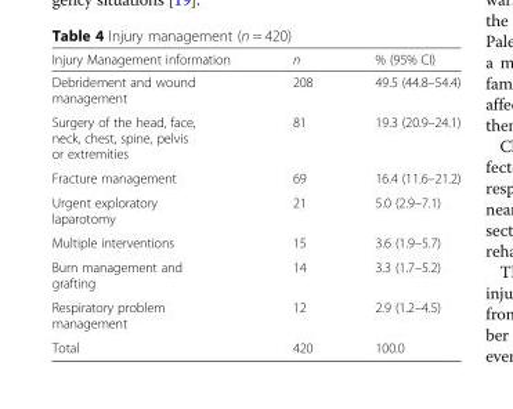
<table><thead><tr><td>Injury Management information</td><td>n</td><td>% (95% CI)</td></tr></thead><tbody><tr><td>Debridement and wound management</td><td>208</td><td>49.5 (44.8–54.4)</td></tr><tr><td>Surgery of the head, face, neck, chest, spine, pelvis or extremities</td><td>81</td><td>19.3 (20.9–24.1)</td></tr><tr><td>Fracture management</td><td>69</td><td>16.4 (11.6–21.2)</td></tr><tr><td>Urgent exploratory laparotomy</td><td>21</td><td>5.0 (2.9–7.1)</td></tr><tr><td>Multiple interventions</td><td>15</td><td>3.6 (1.9–5.7)</td></tr><tr><td>Burn management and grafting</td><td>14</td><td>3.3 (1.7–5.2)</td></tr><tr><td>Respiratory problem management</td><td>12</td><td>2.9 (1.2–4.5)</td></tr><tr><td>Total</td><td>420</td><td>100.0</td></tr></tbody></table>